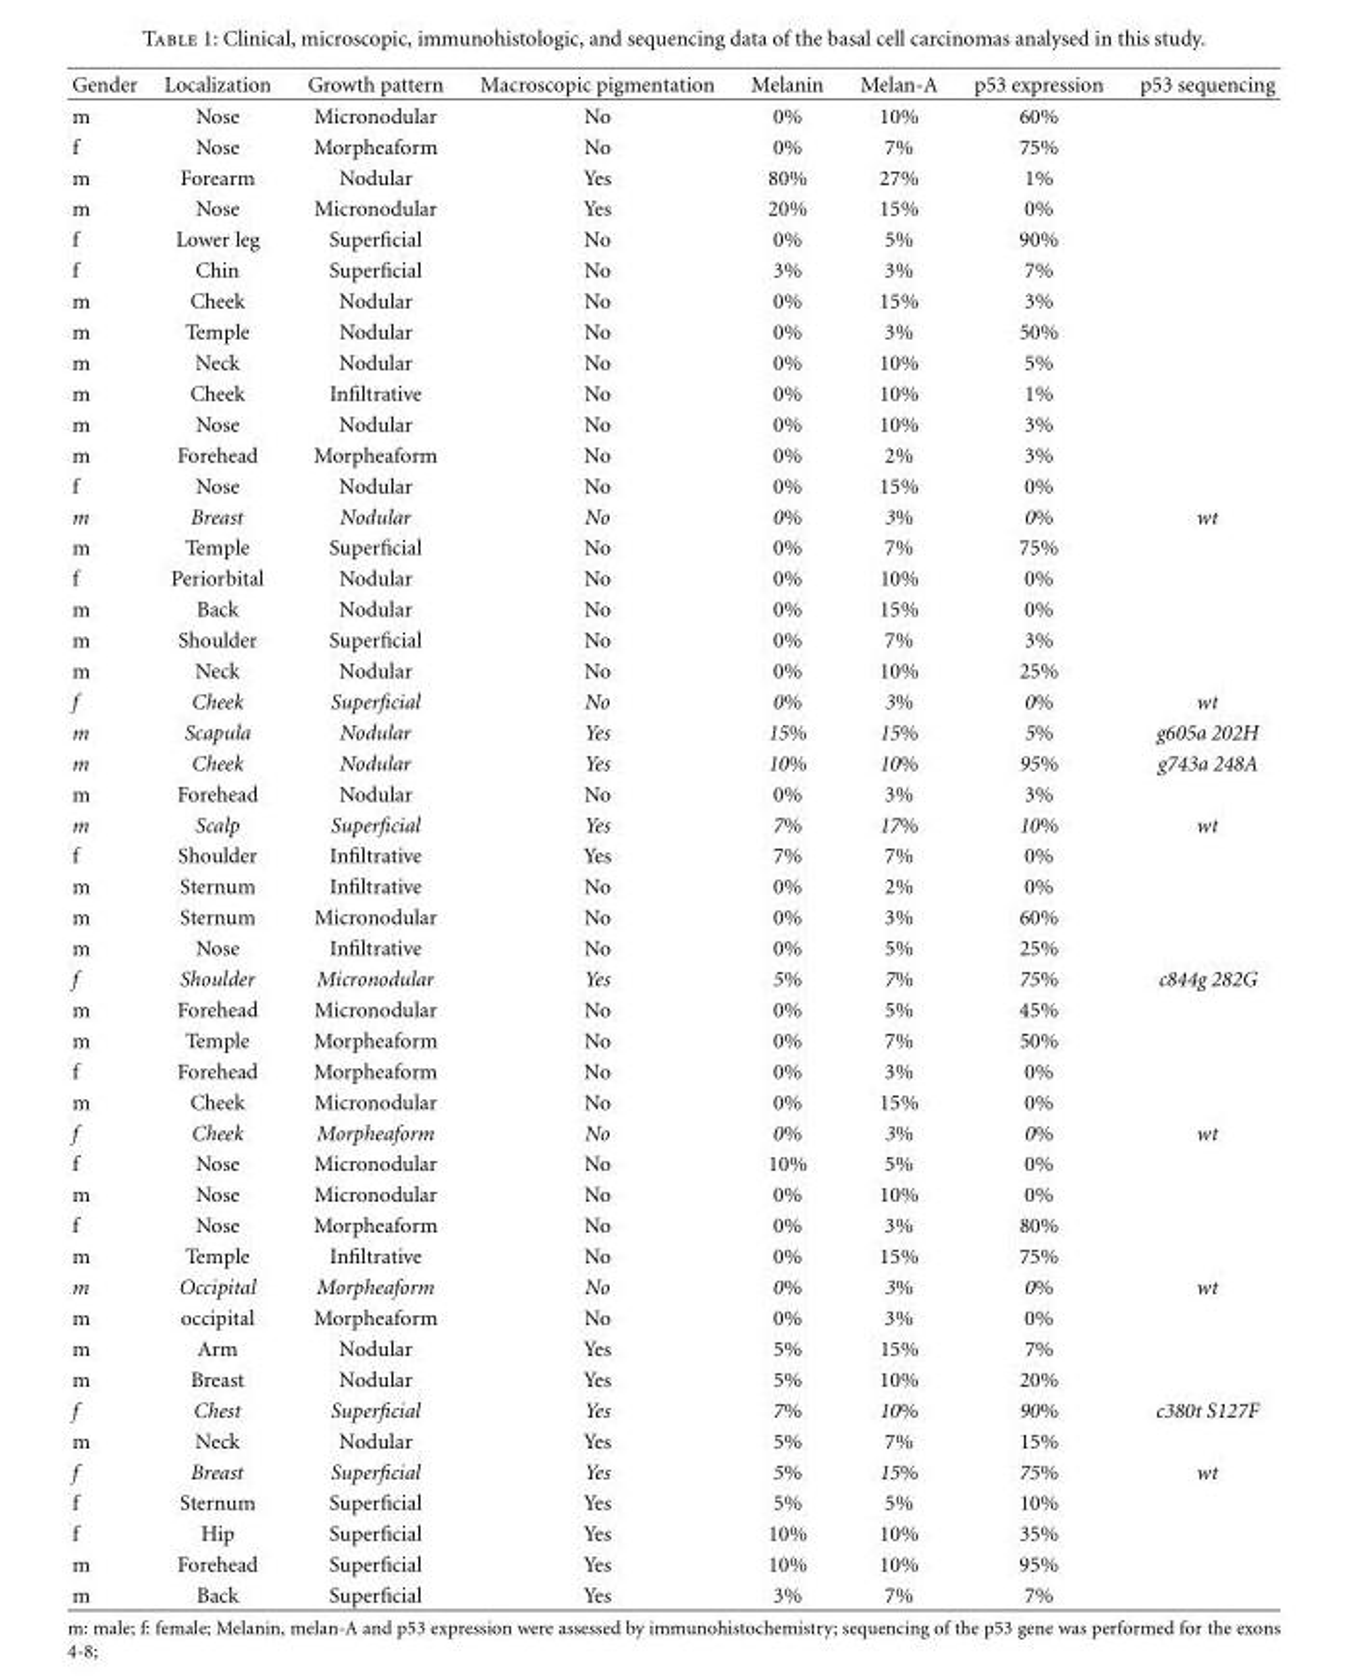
<table><thead><tr><td>Gender</td><td>Localization</td><td>Growth pattern</td><td>Macroscopic pigmentation</td><td>Melanin</td><td>Melan-A</td><td>p53 expression</td><td>p53 sequencing</td></tr></thead><tbody><tr><td>m</td><td>Nose</td><td>Micronodular</td><td>No</td><td>0%</td><td>10%</td><td>60%</td><td></td></tr><tr><td>f</td><td>Nose</td><td>Morpheaform</td><td>No</td><td>0%</td><td>7%</td><td>75%</td><td></td></tr><tr><td>m</td><td>Forearm</td><td>Nodular</td><td>Yes</td><td>80%</td><td>27%</td><td>1%</td><td></td></tr><tr><td>m</td><td>Nose</td><td>Micronodular</td><td>Yes</td><td>20%</td><td>15%</td><td>0%</td><td></td></tr><tr><td>f</td><td>Lower leg</td><td>Superficial</td><td>No</td><td>0%</td><td>5%</td><td>90%</td><td></td></tr><tr><td>f</td><td>Chin</td><td>Superficial</td><td>No</td><td>3%</td><td>3%</td><td>7%</td><td></td></tr><tr><td>m</td><td>Cheek</td><td>Nodular</td><td>No</td><td>0%</td><td>15%</td><td>3%</td><td></td></tr><tr><td>m</td><td>Temple</td><td>Nodular</td><td>No</td><td>0%</td><td>3%</td><td>50%</td><td></td></tr><tr><td>m</td><td>Neck</td><td>Nodular</td><td>No</td><td>0%</td><td>10%</td><td>5%</td><td></td></tr><tr><td>m</td><td>Cheek</td><td>Infiltrative</td><td>No</td><td>0%</td><td>10%</td><td>1%</td><td></td></tr><tr><td>m</td><td>Nose</td><td>Nodular</td><td>No</td><td>0%</td><td>10%</td><td>3%</td><td></td></tr><tr><td>m</td><td>Forehead</td><td>Morpheaform</td><td>No</td><td>0%</td><td>2%</td><td>3%</td><td></td></tr><tr><td>f</td><td>Nose</td><td>Nodular</td><td>No</td><td>0%</td><td>15%</td><td>0%</td><td></td></tr><tr><td>m</td><td>Breast</td><td>Nodular</td><td>No</td><td>0%</td><td>3%</td><td>0%</td><td>wt</td></tr><tr><td>m</td><td>Temple</td><td>Superficial</td><td>No</td><td>0%</td><td>7%</td><td>75%</td><td></td></tr><tr><td>f</td><td>Periorbital</td><td>Nodular</td><td>No</td><td>0%</td><td>10%</td><td>0%</td><td></td></tr><tr><td>m</td><td>Back</td><td>Nodular</td><td>No</td><td>0%</td><td>15%</td><td>0%</td><td></td></tr><tr><td>m</td><td>Shoulder</td><td>Superficial</td><td>No</td><td>0%</td><td>7%</td><td>3%</td><td></td></tr><tr><td>m</td><td>Neck</td><td>Nodular</td><td>No</td><td>0%</td><td>10%</td><td>25%</td><td></td></tr><tr><td>f</td><td>Cheek</td><td>Superficial</td><td>No</td><td>0%</td><td>3%</td><td>0%</td><td>wt</td></tr><tr><td>m</td><td>Scapula</td><td>Nodular</td><td>Yes</td><td>15%</td><td>15%</td><td>5%</td><td>g605a 202H</td></tr><tr><td>m</td><td>Cheek</td><td>Nodular</td><td>Yes</td><td>10%</td><td>10%</td><td>95%</td><td>g743a 248A</td></tr><tr><td>m</td><td>Forehead</td><td>Nodular</td><td>No</td><td>0%</td><td>3%</td><td>3%</td><td></td></tr><tr><td>m</td><td>Scalp</td><td>Superficial</td><td>Yes</td><td>7%</td><td>17%</td><td>10%</td><td>wt</td></tr><tr><td>f</td><td>Shoulder</td><td>Infiltrative</td><td>Yes</td><td>7%</td><td>7%</td><td>0%</td><td></td></tr><tr><td>m</td><td>Sternum</td><td>Infiltrative</td><td>No</td><td>0%</td><td>2%</td><td>0%</td><td></td></tr><tr><td>m</td><td>Sternum</td><td>Micronodular</td><td>No</td><td>0%</td><td>3%</td><td>60%</td><td></td></tr><tr><td>m</td><td>Nose</td><td>Infiltrative</td><td>No</td><td>0%</td><td>5%</td><td>25%</td><td></td></tr><tr><td>f</td><td>Shoulder</td><td>Micronodular</td><td>Yes</td><td>5%</td><td>7%</td><td>75%</td><td>c844g 282G</td></tr><tr><td>m</td><td>Forehead</td><td>Micronodular</td><td>No</td><td>0%</td><td>5%</td><td>45%</td><td></td></tr><tr><td>m</td><td>Temple</td><td>Morpheaform</td><td>No</td><td>0%</td><td>7%</td><td>50%</td><td></td></tr><tr><td>f</td><td>Forehead</td><td>Morpheaform</td><td>No</td><td>0%</td><td>3%</td><td>0%</td><td></td></tr><tr><td>m</td><td>Cheek</td><td>Micronodular</td><td>No</td><td>0%</td><td>15%</td><td>0%</td><td></td></tr><tr><td>f</td><td>Cheek</td><td>Morpheaform</td><td>No</td><td>0%</td><td>3%</td><td>0%</td><td>wt</td></tr><tr><td>f</td><td>Nose</td><td>Micronodular</td><td>No</td><td>10%</td><td>5%</td><td>0%</td><td></td></tr><tr><td>m</td><td>Nose</td><td>Micronodular</td><td>No</td><td>0%</td><td>10%</td><td>0%</td><td></td></tr><tr><td>f</td><td>Nose</td><td>Morpheaform</td><td>No</td><td>0%</td><td>3%</td><td>80%</td><td></td></tr><tr><td>m</td><td>Temple</td><td>Infiltrative</td><td>No</td><td>0%</td><td>15%</td><td>75%</td><td></td></tr><tr><td>m</td><td>Occipital</td><td>Morpheaform</td><td>No</td><td>0%</td><td>3%</td><td>0%</td><td>wt</td></tr><tr><td>m</td><td>occipital</td><td>Morpheaform</td><td>No</td><td>0%</td><td>3%</td><td>0%</td><td></td></tr><tr><td>m</td><td>Arm</td><td>Nodular</td><td>Yes</td><td>5%</td><td>15%</td><td>7%</td><td></td></tr><tr><td>m</td><td>Breast</td><td>Nodular</td><td>Yes</td><td>5%</td><td>10%</td><td>20%</td><td></td></tr><tr><td>f</td><td>Chest</td><td>Superficial</td><td>Yes</td><td>7%</td><td>10%</td><td>90%</td><td>c380t S127F</td></tr><tr><td>m</td><td>Neck</td><td>Nodular</td><td>Yes</td><td>5%</td><td>7%</td><td>15%</td><td></td></tr><tr><td>f</td><td>Breast</td><td>Superficial</td><td>Yes</td><td>5%</td><td>15%</td><td>75%</td><td>wt</td></tr><tr><td>f</td><td>Sternum</td><td>Superficial</td><td>Yes</td><td>5%</td><td>5%</td><td>10%</td><td></td></tr><tr><td>f</td><td>Hip</td><td>Superficial</td><td>Yes</td><td>10%</td><td>10%</td><td>35%</td><td></td></tr><tr><td>m</td><td>Forehead</td><td>Superficial</td><td>Yes</td><td>10%</td><td>10%</td><td>95%</td><td></td></tr><tr><td>m</td><td>Back</td><td>Superficial</td><td>Yes</td><td>3%</td><td>7%</td><td>7%</td><td></td></tr></tbody></table>